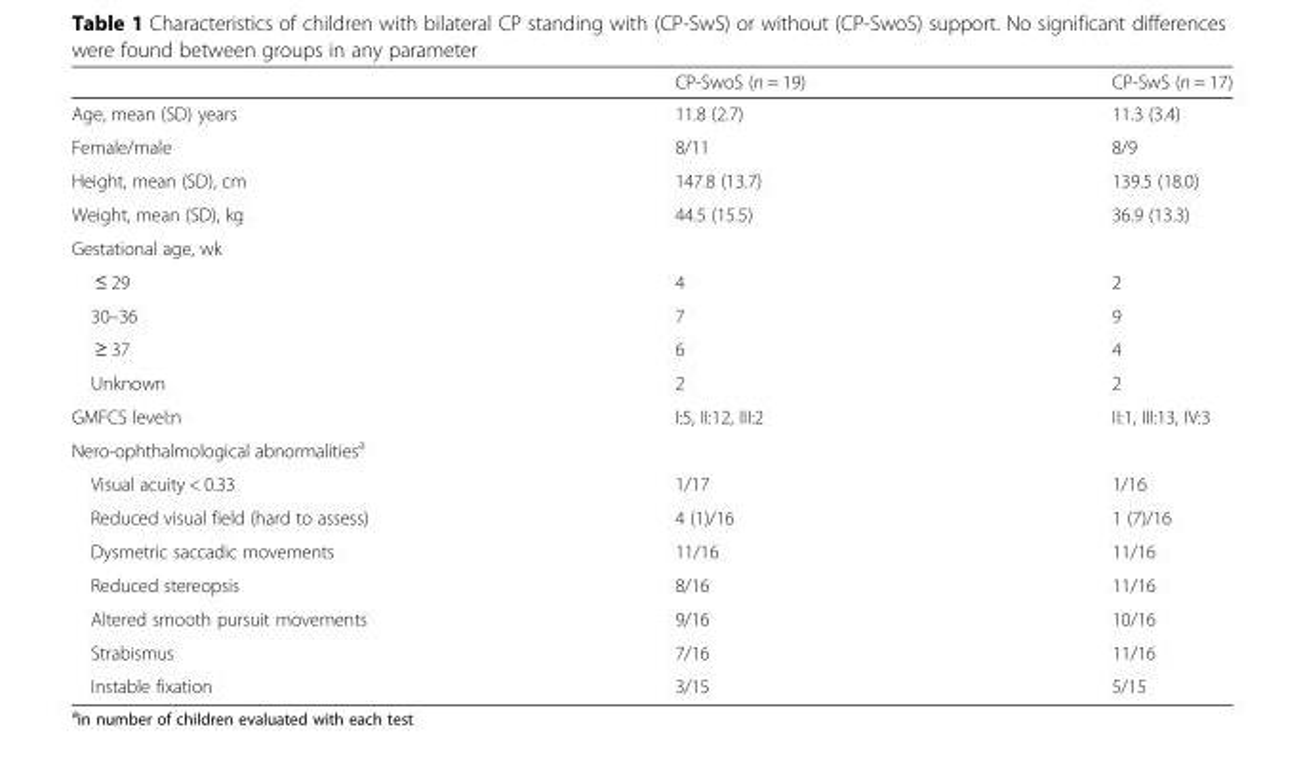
<table><thead><tr><td></td><td>CP-SwoS (n = 19)</td><td>CP-SwS (n = 17)</td></tr></thead><tbody><tr><td>Age, mean (SD) years</td><td>11.8 (2.7)</td><td>11.3 (3.4)</td></tr><tr><td>Female/male</td><td>8/11</td><td>8/9</td></tr><tr><td>Height, mean (SD), cm</td><td>147.8 (13.7)</td><td>139.5 (18.0)</td></tr><tr><td>Weight, mean (SD), kg</td><td>44.5 (15.5)</td><td>36.9 (13.3)</td></tr><tr><td colspan="3">Gestational age, wk</td></tr><tr><td>≤ 29</td><td>4</td><td>2</td></tr><tr><td>30–36</td><td>7</td><td>9</td></tr><tr><td>≥ 37</td><td>6</td><td>4</td></tr><tr><td>Unknown</td><td>2</td><td>2</td></tr><tr><td>GMFCS level:n</td><td>I:5, II:12, III:2</td><td>II:1, III:13, IV:3</td></tr><tr><td colspan="3">Nero-ophthalmological abnormalities<sup>a</sup></td></tr><tr><td>Visual acuity &lt; 0.33</td><td>1/17</td><td>1/16</td></tr><tr><td>Reduced visual field (hard to assess)</td><td>4 (1)/16</td><td>1 (7)/16</td></tr><tr><td>Dysmetric saccadic movements</td><td>11/16</td><td>11/16</td></tr><tr><td>Reduced stereopsis</td><td>8/16</td><td>11/16</td></tr><tr><td>Altered smooth pursuit movements</td><td>9/16</td><td>10/16</td></tr><tr><td>Strabismus</td><td>7/16</td><td>11/16</td></tr><tr><td>Instable fixation</td><td>3/15</td><td>5/15</td></tr></tbody></table>